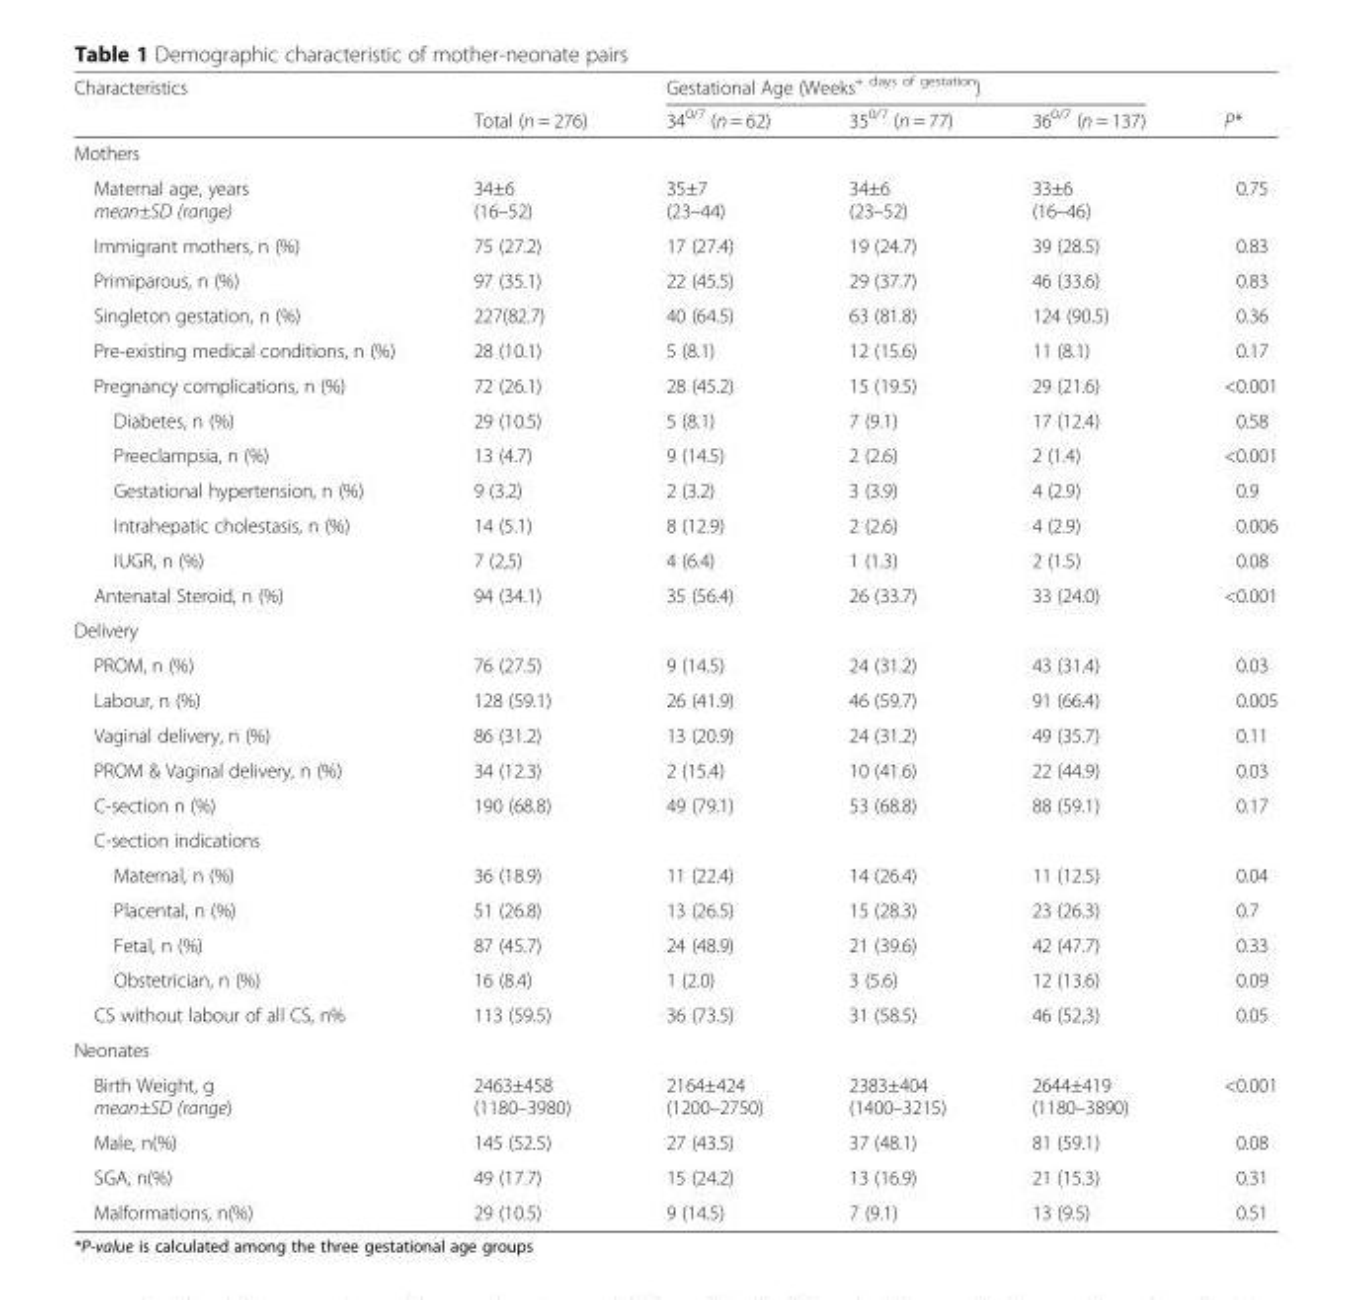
<table><thead><tr><td rowspan="2">Characteristics</td><td rowspan="2">Total (n = 276)</td><td colspan="3">Gestational Age (Weeks<sup>+ days of gestation</sup>)</td><td rowspan="2">P*</td></tr><tr><td>34<sup>0/7</sup> (n = 62)</td><td>35<sup>0/7</sup> (n = 77)</td><td>36<sup>0/7</sup> (n = 137)</td></tr></thead><tbody><tr><td colspan="6">Mothers</td></tr><tr><td>Maternal age, years mean±SD (range)</td><td>34±6 (16–52)</td><td>35±7 (23–44)</td><td>34±6 (23–52)</td><td>33±6 (16–46)</td><td>0.75</td></tr><tr><td>Immigrant mothers, n (%)</td><td>75 (27.2)</td><td>17 (27.4)</td><td>19 (24.7)</td><td>39 (28.5)</td><td>0.83</td></tr><tr><td>Primiparous, n (%)</td><td>97 (35.1)</td><td>22 (45.5)</td><td>29 (37.7)</td><td>46 (33.6)</td><td>0.83</td></tr><tr><td>Singleton gestation, n (%)</td><td>227(82.7)</td><td>40 (64.5)</td><td>63 (81.8)</td><td>124 (90.5)</td><td>0.36</td></tr><tr><td>Pre-existing medical conditions, n (%)</td><td>28 (10.1)</td><td>5 (8.1)</td><td>12 (15.6)</td><td>11 (8.1)</td><td>0.17</td></tr><tr><td>Pregnancy complications, n (%)</td><td>72 (26.1)</td><td>28 (45.2)</td><td>15 (19.5)</td><td>29 (21.6)</td><td>&lt;0.001</td></tr><tr><td>Diabetes, n (%)</td><td>29 (10.5)</td><td>5 (8.1)</td><td>7 (9.1)</td><td>17 (12.4)</td><td>0.58</td></tr><tr><td>Preeclampsia, n (%)</td><td>13 (4.7)</td><td>9 (14.5)</td><td>2 (2.6)</td><td>2 (1.4)</td><td>&lt;0.001</td></tr><tr><td>Gestational hypertension, n (%)</td><td>9 (3.2)</td><td>2 (3.2)</td><td>3 (3.9)</td><td>4 (2.9)</td><td>0.9</td></tr><tr><td>Intrahepatic cholestasis, n (%)</td><td>14 (5.1)</td><td>8 (12.9)</td><td>2 (2.6)</td><td>4 (2.9)</td><td>0.006</td></tr><tr><td>IUGR, n (%)</td><td>7 (2,5)</td><td>4 (6.4)</td><td>1 (1.3)</td><td>2 (1.5)</td><td>0.08</td></tr><tr><td>Antenatal Steroid, n (%)</td><td>94 (34.1)</td><td>35 (56.4)</td><td>26 (33.7)</td><td>33 (24.0)</td><td>&lt;0.001</td></tr><tr><td colspan="6">Delivery</td></tr><tr><td>PROM, n (%)</td><td>76 (27.5)</td><td>9 (14.5)</td><td>24 (31.2)</td><td>43 (31.4)</td><td>0.03</td></tr><tr><td>Labour, n (%)</td><td>128 (59.1)</td><td>26 (41.9)</td><td>46 (59.7)</td><td>91 (66.4)</td><td>0.005</td></tr><tr><td>Vaginal delivery, n (%)</td><td>86 (31.2)</td><td>13 (20.9)</td><td>24 (31.2)</td><td>49 (35.7)</td><td>0.11</td></tr><tr><td>PROM &amp; Vaginal delivery, n (%)</td><td>34 (12.3)</td><td>2 (15.4)</td><td>10 (41.6)</td><td>22 (44.9)</td><td>0.03</td></tr><tr><td>C-section n (%)</td><td>190 (68.8)</td><td>49 (79.1)</td><td>53 (68.8)</td><td>88 (59.1)</td><td>0.17</td></tr><tr><td colspan="6">C-section indications</td></tr><tr><td>Maternal, n (%)</td><td>36 (18.9)</td><td>11 (22.4)</td><td>14 (26.4)</td><td>11 (12.5)</td><td>0.04</td></tr><tr><td>Placental, n (%)</td><td>51 (26.8)</td><td>13 (26.5)</td><td>15 (28.3)</td><td>23 (26.3)</td><td>0.7</td></tr><tr><td>Fetal, n (%)</td><td>87 (45.7)</td><td>24 (48.9)</td><td>21 (39.6)</td><td>42 (47.7)</td><td>0.33</td></tr><tr><td>Obstetrician, n (%)</td><td>16 (8.4)</td><td>1 (2.0)</td><td>3 (5.6)</td><td>12 (13.6)</td><td>0.09</td></tr><tr><td>CS without labour of all CS, n%</td><td>113 (59.5)</td><td>36 (73.5)</td><td>31 (58.5)</td><td>46 (52,3)</td><td>0.05</td></tr><tr><td colspan="6">Neonates</td></tr><tr><td>Birth Weight, g mean±SD (range)</td><td>2463±458 (1180–3980)</td><td>2164±424 (1200–2750)</td><td>2383±404 (1400–3215)</td><td>2644±419 (1180–3890)</td><td>&lt;0.001</td></tr><tr><td>Male, n(%)</td><td>145 (52.5)</td><td>27 (43.5)</td><td>37 (48.1)</td><td>81 (59.1)</td><td>0.08</td></tr><tr><td>SGA, n(%)</td><td>49 (17.7)</td><td>15 (24.2)</td><td>13 (16.9)</td><td>21 (15.3)</td><td>0.31</td></tr><tr><td>Malformations, n(%)</td><td>29 (10.5)</td><td>9 (14.5)</td><td>7 (9.1)</td><td>13 (9.5)</td><td>0.51</td></tr></tbody></table>